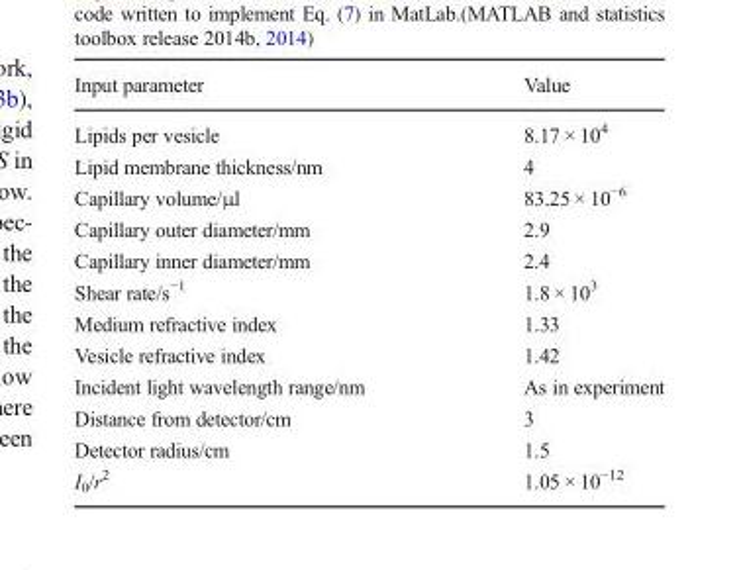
<table><thead><tr><td>Input parameter</td><td>Value</td></tr></thead><tbody><tr><td>Lipids per vesicle</td><td>8.17 × 10<sup>4</sup></td></tr><tr><td>Lipid membrane thickness/nm</td><td>4</td></tr><tr><td>Capillary volume/μl</td><td>83.25 × 10<sup>−6</sup></td></tr><tr><td>Capillary outer diameter/mm</td><td>2.9</td></tr><tr><td>Capillary inner diameter/mm</td><td>2.4</td></tr><tr><td>Shear rate/s<sup>−1</sup></td><td>1.8 × 10<sup>3</sup></td></tr><tr><td>Medium refractive index</td><td>1.33</td></tr><tr><td>Vesicle refractive index</td><td>1.42</td></tr><tr><td>Incident light wavelength range/nm</td><td>As in experiment</td></tr><tr><td>Distance from detector/cm</td><td>3</td></tr><tr><td>Detector radius/cm</td><td>1.5</td></tr><tr><td>I<sub>0</sub>/r<sup>2</sup></td><td>1.05 × 10<sup>−12</sup></td></tr></tbody></table>